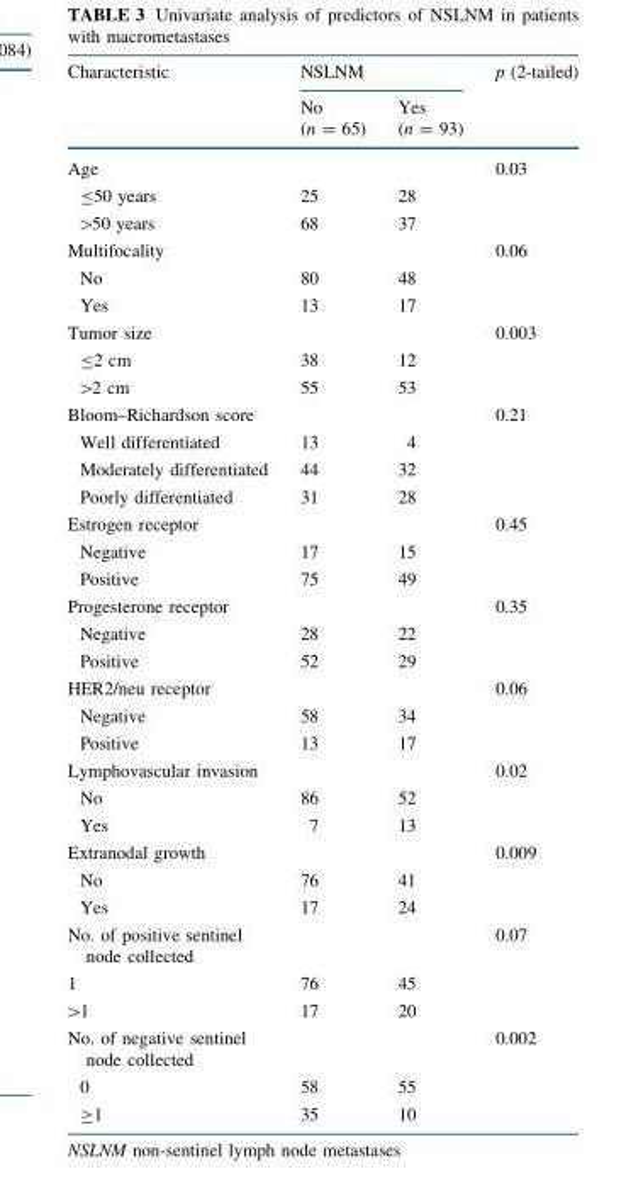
<table><thead><tr><td rowspan="2">Characteristic</td><td colspan="2">NSLNM</td><td rowspan="2">p (2-tailed)</td></tr><tr><td>No (n = 65)</td><td>Yes (n = 93)</td></tr></thead><tbody><tr><td>Age</td><td></td><td></td><td>0.03</td></tr><tr><td>≤50 years</td><td>25</td><td>28</td><td></td></tr><tr><td>&gt;50 years</td><td>68</td><td>37</td><td></td></tr><tr><td>Multifocality</td><td></td><td></td><td>0.06</td></tr><tr><td>No</td><td>80</td><td>48</td><td></td></tr><tr><td>Yes</td><td>13</td><td>17</td><td></td></tr><tr><td>Tumor size</td><td></td><td></td><td>0.003</td></tr><tr><td>≤2 cm</td><td>38</td><td>12</td><td></td></tr><tr><td>&gt;2 cm</td><td>55</td><td>53</td><td></td></tr><tr><td>Bloom–Richardson score</td><td></td><td></td><td>0.21</td></tr><tr><td>Well differentiated</td><td>13</td><td>4</td><td></td></tr><tr><td>Moderately differentiated</td><td>44</td><td>32</td><td></td></tr><tr><td>Poorly differentiated</td><td>31</td><td>28</td><td></td></tr><tr><td>Estrogen receptor</td><td></td><td></td><td>0.45</td></tr><tr><td>Negative</td><td>17</td><td>15</td><td></td></tr><tr><td>Positive</td><td>75</td><td>49</td><td></td></tr><tr><td>Progesterone receptor</td><td></td><td></td><td>0.35</td></tr><tr><td>Negative</td><td>28</td><td>22</td><td></td></tr><tr><td>Positive</td><td>52</td><td>29</td><td></td></tr><tr><td>HER2/neu receptor</td><td></td><td></td><td>0.06</td></tr><tr><td>Negative</td><td>58</td><td>34</td><td></td></tr><tr><td>Positive</td><td>13</td><td>17</td><td></td></tr><tr><td>Lymphovascular invasion</td><td></td><td></td><td>0.02</td></tr><tr><td>No</td><td>86</td><td>52</td><td></td></tr><tr><td>Yes</td><td>7</td><td>13</td><td></td></tr><tr><td>Extranodal growth</td><td></td><td></td><td>0.009</td></tr><tr><td>No</td><td>76</td><td>41</td><td></td></tr><tr><td>Yes</td><td>17</td><td>24</td><td></td></tr><tr><td>No. of positive sentinel node collected</td><td></td><td></td><td>0.07</td></tr><tr><td>1</td><td>76</td><td>45</td><td></td></tr><tr><td>&gt;1</td><td>17</td><td>20</td><td></td></tr><tr><td>No. of negative sentinel node collected</td><td></td><td></td><td>0.002</td></tr><tr><td>0</td><td>58</td><td>55</td><td></td></tr><tr><td>≥1</td><td>35</td><td>10</td><td></td></tr></tbody></table>